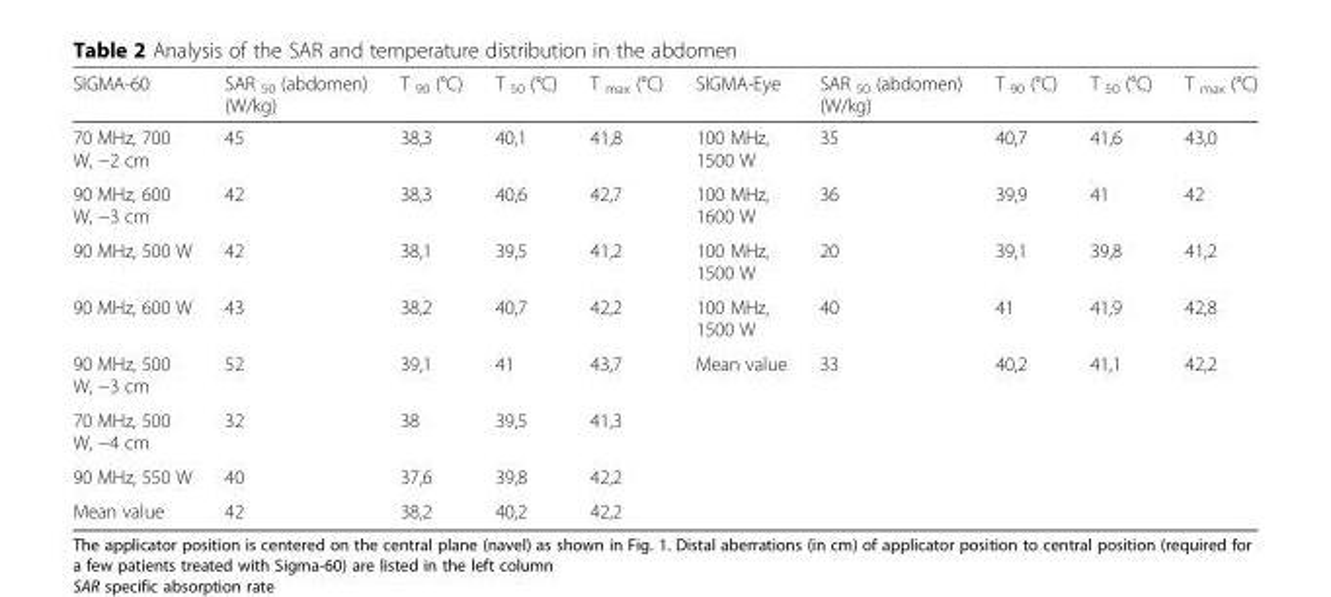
<table><thead><tr><td>SIGMA-60</td><td>SAR <sub>50</sub> (abdomen) (W/kg)</td><td>T <sub>90</sub> (°C)</td><td>T <sub>50</sub> (°C)</td><td>T <sub>max</sub> (°C)</td><td>SIGMA-Eye</td><td>SAR <sub>50</sub> (abdomen) (W/kg)</td><td>T <sub>90</sub> (°C)</td><td>T <sub>50</sub> (°C)</td><td>T <sub>max</sub> (°C)</td></tr></thead><tbody><tr><td>70 MHz, 700 W, −2 cm</td><td>45</td><td>38,3</td><td>40,1</td><td>41,8</td><td>100 MHz, 1500 W</td><td>35</td><td>40,7</td><td>41,6</td><td>43,0</td></tr><tr><td>90 MHz, 600 W, −3 cm</td><td>42</td><td>38,3</td><td>40,6</td><td>42,7</td><td>100 MHz, 1600 W</td><td>36</td><td>39,9</td><td>41</td><td>42</td></tr><tr><td>90 MHz, 500 W</td><td>42</td><td>38,1</td><td>39,5</td><td>41,2</td><td>100 MHz, 1500 W</td><td>20</td><td>39,1</td><td>39,8</td><td>41,2</td></tr><tr><td>90 MHz, 600 W</td><td>43</td><td>38,2</td><td>40,7</td><td>42,2</td><td>100 MHz, 1500 W</td><td>40</td><td>41</td><td>41,9</td><td>42,8</td></tr><tr><td>90 MHz, 500 W, −3 cm</td><td>52</td><td>39,1</td><td>41</td><td>43,7</td><td>Mean value</td><td>33</td><td>40,2</td><td>41,1</td><td>42,2</td></tr><tr><td>70 MHz, 500 W, −4 cm</td><td>32</td><td>38</td><td>39,5</td><td>41,3</td><td></td><td></td><td></td><td></td><td></td></tr><tr><td>90 MHz, 550 W</td><td>40</td><td>37,6</td><td>39,8</td><td>42,2</td><td></td><td></td><td></td><td></td><td></td></tr><tr><td>Mean value</td><td>42</td><td>38,2</td><td>40,2</td><td>42,2</td><td></td><td></td><td></td><td></td><td></td></tr></tbody></table>